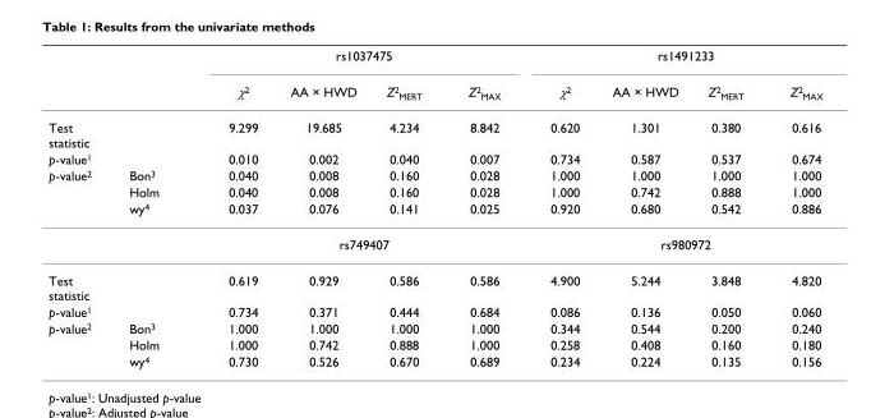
<table><thead><tr><td rowspan="2"></td><td rowspan="2"></td><td colspan="4">rs1037475</td><td colspan="4">rs1491233</td></tr><tr><td>χ2</td><td>AA × HWD</td><td>Z2MERT</td><td>Z2MAX</td><td>χ2</td><td>AA × HWD</td><td>Z2MERT</td><td>Z2MAX</td></tr></thead><tbody><tr><td>Test statistic</td><td></td><td>9.299</td><td>19.685</td><td>4.234</td><td>8.842</td><td>0.620</td><td>1.301</td><td>0.380</td><td>0.616</td></tr><tr><td>p-value1</td><td></td><td>0.010</td><td>0.002</td><td>0.040</td><td>0.007</td><td>0.734</td><td>0.587</td><td>0.537</td><td>0.674</td></tr><tr><td rowspan="4">p-value2</td><td>Bon3</td><td>0.040</td><td>0.008</td><td>0.160</td><td>0.028</td><td>1.000</td><td>1.000</td><td>1.000</td><td>1.000</td></tr><tr><td>Holm</td><td>0.040</td><td>0.008</td><td>0.160</td><td>0.028</td><td>1.000</td><td>0.742</td><td>0.888</td><td>1.000</td></tr><tr><td>wy4</td><td>0.037</td><td>0.076</td><td>0.141</td><td>0.025</td><td>0.920</td><td>0.680</td><td>0.542</td><td>0.886</td></tr><tr><td></td><td colspan="4">rs749407</td><td colspan="4">rs980972</td></tr><tr><td>Test statistic</td><td></td><td>0.619</td><td>0.929</td><td>0.586</td><td>0.586</td><td>4.900</td><td>5.244</td><td>3.848</td><td>4.820</td></tr><tr><td>p-value1</td><td></td><td>0.734</td><td>0.371</td><td>0.444</td><td>0.684</td><td>0.086</td><td>0.136</td><td>0.050</td><td>0.060</td></tr><tr><td rowspan="3">p-value2</td><td>Bon3</td><td>1.000</td><td>1.000</td><td>1.000</td><td>1.000</td><td>0.344</td><td>0.544</td><td>0.200</td><td>0.240</td></tr><tr><td>Holm</td><td>1.000</td><td>0.742</td><td>0.888</td><td>1.000</td><td>0.258</td><td>0.408</td><td>0.160</td><td>0.180</td></tr><tr><td>wy4</td><td>0.730</td><td>0.526</td><td>0.670</td><td>0.689</td><td>0.234</td><td>0.224</td><td>0.135</td><td>0.156</td></tr></tbody></table>